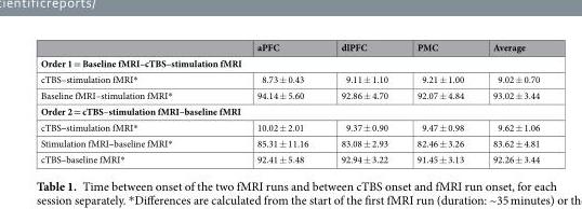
<table><thead><tr><td></td><td>aPFC</td><td>dlPFC</td><td>PMC</td><td>Average</td></tr></thead><tbody><tr><td colspan="5">Order 1 = Baseline fMRI–cTBS–stimulation fMRI</td></tr><tr><td>cTBS–stimulation fMRI*</td><td>8.73 ± 0.43</td><td>9.11 ± 1.10</td><td>9.21 ± 1.00</td><td>9.02 ± 0.70</td></tr><tr><td>Baseline fMRI–stimulation fMRI*</td><td>94.14 ± 5.60</td><td>92.86 ± 4.70</td><td>92.07 ± 4.84</td><td>93.02 ± 3.44</td></tr><tr><td colspan="5">Order 2 = cTBS–stimulation fMRI–baseline fMRI</td></tr><tr><td>cTBS–stimulation fMRI*</td><td>10.02 ± 2.01</td><td>9.37 ± 0.90</td><td>9.47 ± 0.98</td><td>9.62 ± 1.06</td></tr><tr><td>Stimulation fMRI–baseline fMRI*</td><td>85.31 ± 11.16</td><td>83.08 ± 2.93</td><td>82.46 ± 3.26</td><td>83.62 ± 4.81</td></tr><tr><td>cTBS–baseline fMRI*</td><td>92.41 ± 5.48</td><td>92.94 ± 3.22</td><td>91.45 ± 3.13</td><td>92.26 ± 3.44</td></tr></tbody></table>